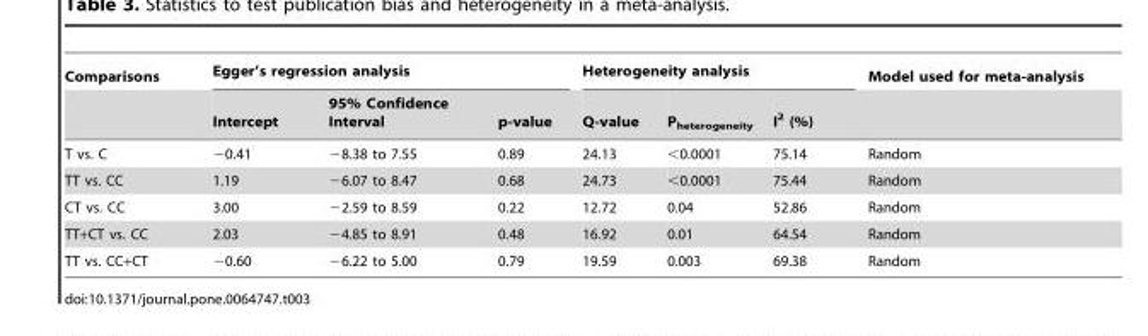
<table><thead><tr><td rowspan="2">Comparisons</td><td colspan="3">Egger’s regression analysis</td><td colspan="3">Heterogeneity analysis</td><td rowspan="2">Model used for meta-analysis</td></tr><tr><td>Intercept</td><td>95% Confidence Interval</td><td>p-value</td><td>Q-value</td><td>P<sub>heterogeneity</sub></td><td>I<sup>2</sup> (%)</td></tr></thead><tbody><tr><td>T vs. C</td><td>−0.41</td><td>−8.38 to 7.55</td><td>0.89</td><td>24.13</td><td>&lt;0.0001</td><td>75.14</td><td>Random</td></tr><tr><td>TT vs. CC</td><td>1.19</td><td>−6.07 to 8.47</td><td>0.68</td><td>24.73</td><td>&lt;0.0001</td><td>75.44</td><td>Random</td></tr><tr><td>CT vs. CC</td><td>3.00</td><td>−2.59 to 8.59</td><td>0.22</td><td>12.72</td><td>0.04</td><td>52.86</td><td>Random</td></tr><tr><td>TT+CT vs. CC</td><td>2.03</td><td>−4.85 to 8.91</td><td>0.48</td><td>16.92</td><td>0.01</td><td>64.54</td><td>Random</td></tr><tr><td>TT vs. CC+CT</td><td>−0.60</td><td>−6.22 to 5.00</td><td>0.79</td><td>19.59</td><td>0.003</td><td>69.38</td><td>Random</td></tr></tbody></table>